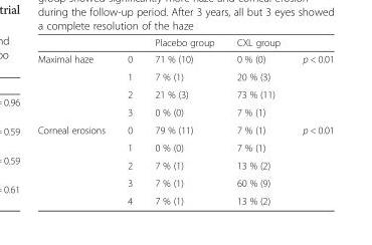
<table><thead><tr><td></td><td></td><td>Placebo group</td><td>CXL group</td><td></td></tr></thead><tbody><tr><td rowspan="4">Maximal haze</td><td>0</td><td>71 % (10)</td><td>0 % (0)</td><td>p &lt; 0.01</td></tr><tr><td>1</td><td>7 % (1)</td><td>20 % (3)</td><td></td></tr><tr><td>2</td><td>21 % (3)</td><td>73 % (11)</td><td></td></tr><tr><td>3</td><td>0 % (0)</td><td>7 % (1)</td><td></td></tr><tr><td rowspan="5">Corneal erosions</td><td>0</td><td>79 % (11)</td><td>7 % (1)</td><td>p &lt; 0.01</td></tr><tr><td>1</td><td>0 % (0)</td><td>7 % (1)</td><td></td></tr><tr><td>2</td><td>7 % (1)</td><td>13 % (2)</td><td></td></tr><tr><td>3</td><td>7 % (1)</td><td>60 % (9)</td><td></td></tr><tr><td>4</td><td>7 % (1)</td><td>13 % (2)</td><td></td></tr></tbody></table>